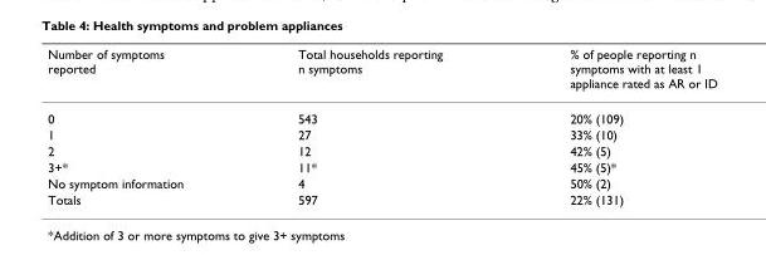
<table><thead><tr><td>Number of symptoms reported</td><td>Total households reporting n symptoms</td><td>% of people reporting n symptoms with at least 1 appliance rated as AR or ID</td></tr></thead><tbody><tr><td>0</td><td>543</td><td>20% (109)</td></tr><tr><td>1</td><td>27</td><td>33% (10)</td></tr><tr><td>2</td><td>12</td><td>42% (5)</td></tr><tr><td>3+*</td><td>11*</td><td>45% (5)*</td></tr><tr><td>No symptom information</td><td>4</td><td>50% (2)</td></tr><tr><td>Totals</td><td>597</td><td>22% (131)</td></tr></tbody></table>